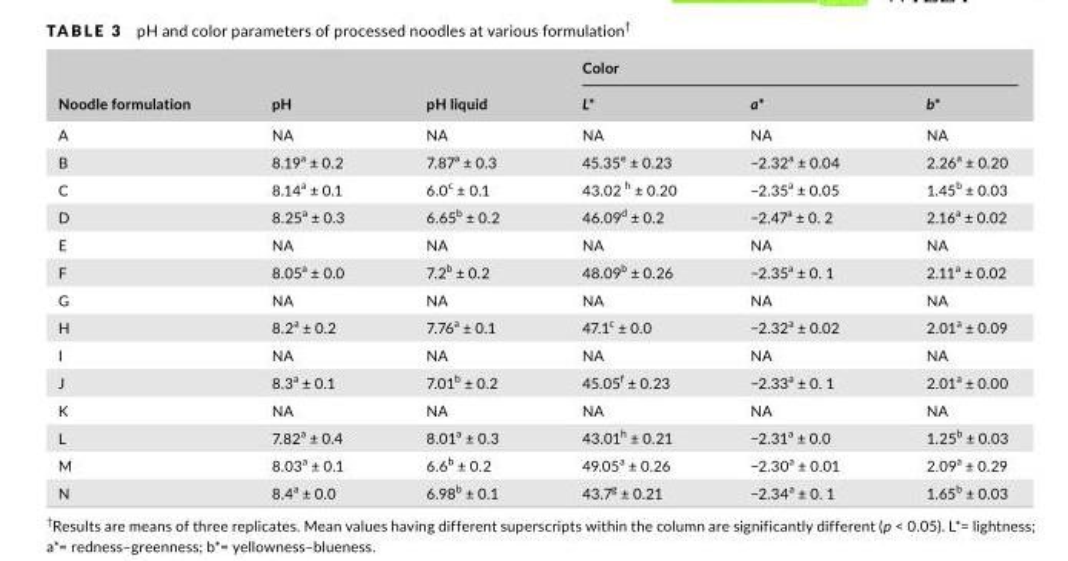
<table><thead><tr><td rowspan="2">Noodle formulation</td><td rowspan="2">pH</td><td rowspan="2">pH liquid</td><td colspan="3">Color</td></tr><tr><td>L*</td><td>a*</td><td>b*</td></tr></thead><tbody><tr><td>A</td><td>NA</td><td>NA</td><td>NA</td><td>NA</td><td>NA</td></tr><tr><td>B</td><td>8.19<sup>a</sup> ± 0.2</td><td>7.87<sup>a</sup> ± 0.3</td><td>45.35<sup>e</sup> ± 0.23</td><td>−2.32<sup>a</sup> ± 0.04</td><td>2.26<sup>a</sup> ± 0.20</td></tr><tr><td>C</td><td>8.14<sup>a</sup> ± 0.1</td><td>6.0<sup>c</sup> ± 0.1</td><td>43.02 <sup>h</sup> ± 0.20</td><td>−2.35<sup>a</sup> ± 0.05</td><td>1.45<sup>b</sup> ± 0.03</td></tr><tr><td>D</td><td>8.25<sup>a</sup> ± 0.3</td><td>6.65<sup>b</sup> ± 0.2</td><td>46.09<sup>d</sup> ± 0.2</td><td>−2.47<sup>a</sup> ± 0. 2</td><td>2.16<sup>a</sup> ± 0.02</td></tr><tr><td>E</td><td>NA</td><td>NA</td><td>NA</td><td>NA</td><td>NA</td></tr><tr><td>F</td><td>8.05<sup>a</sup> ± 0.0</td><td>7.2<sup>b</sup> ± 0.2</td><td>48.09<sup>b</sup> ± 0.26</td><td>−2.35<sup>a</sup> ± 0. 1</td><td>2.11<sup>a</sup> ± 0.02</td></tr><tr><td>G</td><td>NA</td><td>NA</td><td>NA</td><td>NA</td><td>NA</td></tr><tr><td>H</td><td>8.2<sup>a</sup> ± 0.2</td><td>7.76<sup>a</sup> ± 0.1</td><td>47.1<sup>c</sup> ± 0.0</td><td>−2.32<sup>a</sup> ± 0.02</td><td>2.01<sup>a</sup> ± 0.09</td></tr><tr><td>I</td><td>NA</td><td>NA</td><td>NA</td><td>NA</td><td>NA</td></tr><tr><td>J</td><td>8.3<sup>a</sup> ± 0.1</td><td>7.01<sup>b</sup> ± 0.2</td><td>45.05<sup>f</sup> ± 0.23</td><td>−2.33<sup>a</sup> ± 0. 1</td><td>2.01<sup>a</sup> ± 0.00</td></tr><tr><td>K</td><td>NA</td><td>NA</td><td>NA</td><td>NA</td><td>NA</td></tr><tr><td>L</td><td>7.82<sup>a</sup> ± 0.4</td><td>8.01<sup>a</sup> ± 0.3</td><td>43.01<sup>h</sup> ± 0.21</td><td>−2.31<sup>a</sup> ± 0.0</td><td>1.25<sup>b</sup> ± 0.03</td></tr><tr><td>M</td><td>8.03<sup>a</sup> ± 0.1</td><td>6.6<sup>b</sup> ± 0.2</td><td>49.05<sup>a</sup> ± 0.26</td><td>−2.30<sup>a</sup> ± 0.01</td><td>2.09<sup>a</sup> ± 0.29</td></tr><tr><td>N</td><td>8.4<sup>a</sup> ± 0.0</td><td>6.98<sup>b</sup> ± 0.1</td><td>43.7<sup>g</sup> ± 0.21</td><td>−2.34<sup>a</sup> ± 0. 1</td><td>1.65<sup>b</sup> ± 0.03</td></tr></tbody></table>